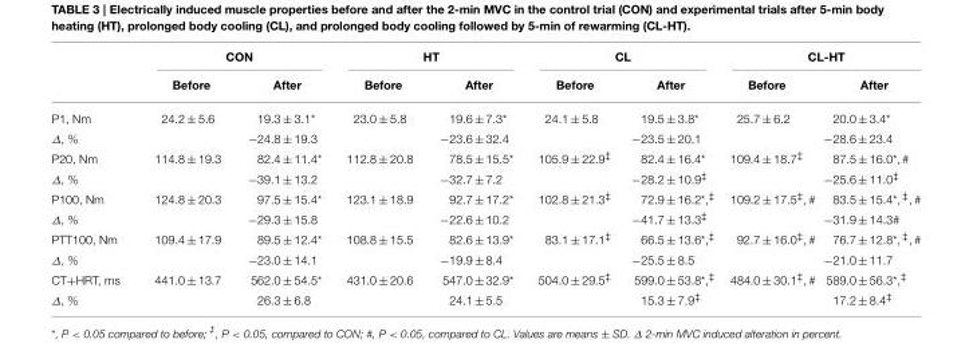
<table><thead><tr><td rowspan="2"></td><td colspan="2">CON</td><td colspan="2">HT</td><td colspan="2">CL</td><td colspan="2">CL-HT</td></tr><tr><td>Before</td><td>After</td><td>Before</td><td>After</td><td>Before</td><td>After</td><td>Before</td><td>After</td></tr></thead><tbody><tr><td>P1, Nm</td><td>24.2 ± 5.6</td><td>19.3 ± 3.1*</td><td>23.0 ± 5.8</td><td>19.6 ± 7.3*</td><td>24.1 ± 5.8</td><td>19.5 ± 3.8*</td><td>25.7 ± 6.2</td><td>20.0 ± 3.4*</td></tr><tr><td>∆, %</td><td></td><td>−24.8 ± 19.3</td><td></td><td>−23.6 ± 32.4</td><td></td><td>−23.5 ± 20.1</td><td></td><td>−28.6 ± 23.4</td></tr><tr><td>P20, Nm</td><td>114.8 ± 19.3</td><td>82.4 ± 11.4*</td><td>112.8 ± 20.8</td><td>78.5 ± 15.5*</td><td>105.9 ± 22.9<sup>‡</sup></td><td>82.4 ± 16.4*</td><td>109.4 ± 18.7<sup>‡</sup></td><td>87.5 ± 16.0*, <sup>#</sup></td></tr><tr><td>∆, %</td><td></td><td>−39.1 ± 13.2</td><td></td><td>−32.7 ± 7.2</td><td></td><td>−28.2 ± 10.9<sup>‡</sup></td><td></td><td>−25.6 ± 11.0<sup>‡</sup></td></tr><tr><td>P100, Nm</td><td>124.8 ± 20.3</td><td>97.5 ± 15.4*</td><td>123.1 ± 18.9</td><td>92.7 ± 17.2*</td><td>102.8 ± 21.3<sup>‡</sup></td><td>72.9 ± 16.2*,<sup>‡</sup></td><td>109.2 ± 17.5<sup>‡</sup>, <sup>#</sup></td><td>83.5 ± 15.4*, <sup>‡</sup>, <sup>#</sup></td></tr><tr><td>∆, %</td><td></td><td>−29.3 ± 15.8</td><td></td><td>−22.6 ± 10.2</td><td></td><td>−41.7 ± 13.3<sup>‡</sup></td><td></td><td>−31.9 ± 14.3<sup>#</sup></td></tr><tr><td>PTT100, Nm</td><td>109.4 ± 17.9</td><td>89.5 ± 12.4*</td><td>108.8 ± 15.5</td><td>82.6 ± 13.9*</td><td>83.1 ± 17.1<sup>‡</sup></td><td>66.5 ± 13.6*,<sup>‡</sup></td><td>92.7 ± 16.0<sup>‡</sup>, <sup>#</sup></td><td>76.7 ± 12.8*, <sup>‡</sup>, <sup>#</sup></td></tr><tr><td>∆, %</td><td></td><td>−23.0 ± 14.1</td><td></td><td>−19.9 ± 8.4</td><td></td><td>−25.5 ± 8.5</td><td></td><td>−21.0 ± 11.7</td></tr><tr><td>CT+HRT, ms</td><td>441.0 ± 13.7</td><td>562.0 ± 54.5*</td><td>431.0 ± 20.6</td><td>547.0 ± 32.9*</td><td>504.0 ± 29.5<sup>‡</sup></td><td>599.0 ± 53.8*,<sup>‡</sup></td><td>484.0 ± 30.1<sup>‡</sup>, <sup>#</sup></td><td>589.0 ± 56.3*,<sup>‡</sup></td></tr><tr><td>∆, %</td><td></td><td>26.3 ± 6.8</td><td></td><td>24.1 ± 5.5</td><td></td><td>15.3 ± 7.9<sup>‡</sup></td><td></td><td>17.2 ± 8.4<sup>‡</sup></td></tr></tbody></table>